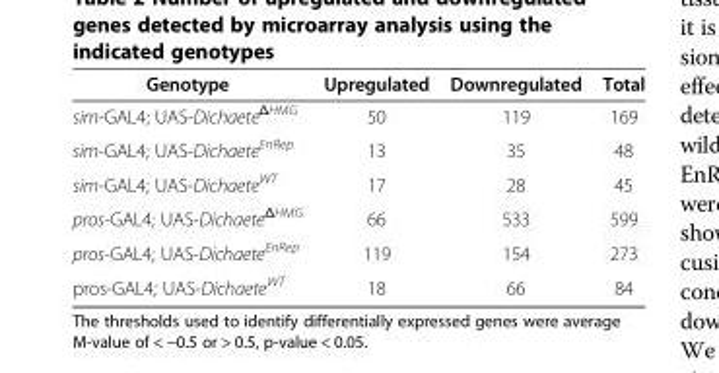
<table><thead><tr><td>Genotype</td><td>Upregulated</td><td>Downregulated</td><td>Total</td></tr></thead><tbody><tr><td>sim-GAL4; UAS-Dichaete<sup>ΔHMG</sup></td><td>50</td><td>119</td><td>169</td></tr><tr><td>sim-GAL4; UAS-Dichaete<sup>EnRep</sup></td><td>13</td><td>35</td><td>48</td></tr><tr><td>sim-GAL4; UAS-Dichaete<sup>WT</sup></td><td>17</td><td>28</td><td>45</td></tr><tr><td>pros-GAL4; UAS-Dichaete<sup>ΔHMG</sup></td><td>66</td><td>533</td><td>599</td></tr><tr><td>pros-GAL4; UAS-Dichaete<sup>EnRep</sup></td><td>119</td><td>154</td><td>273</td></tr><tr><td>pros-GAL4; UAS-Dichaete<sup>WT</sup></td><td>18</td><td>66</td><td>84</td></tr></tbody></table>